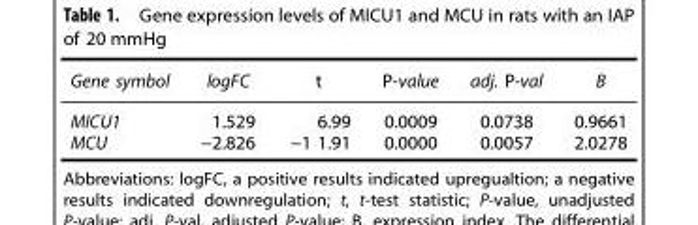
<table><thead><tr><td>Gene symbol</td><td>logFC</td><td>t</td><td>P-value</td><td>adj. P-val</td><td>B</td></tr></thead><tbody><tr><td>MICU1</td><td>1.529</td><td>6.99</td><td>0.0009</td><td>0.0738</td><td>0.9661</td></tr><tr><td>MCU</td><td>−2.826</td><td>−1 1.91</td><td>0.0000</td><td>0.0057</td><td>2.0278</td></tr></tbody></table>